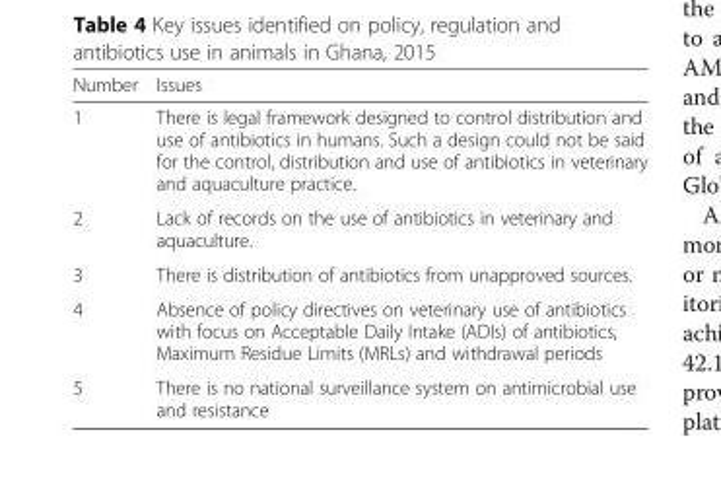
<table><thead><tr><td>Number</td><td>Issues</td></tr></thead><tbody><tr><td>1</td><td>There is legal framework designed to control distribution and use of antibiotics in humans. Such a design could not be said for the control, distribution and use of antibiotics in veterinary and aquaculture practice.</td></tr><tr><td>2</td><td>Lack of records on the use of antibiotics in veterinary and aquaculture.</td></tr><tr><td>3</td><td>There is distribution of antibiotics from unapproved sources.</td></tr><tr><td>4</td><td>Absence of policy directives on veterinary use of antibiotics with focus on Acceptable Daily Intake (ADIs) of antibiotics, Maximum Residue Limits (MRLs) and withdrawal periods</td></tr><tr><td>5</td><td>There is no national surveillance system on antimicrobial use and resistance</td></tr></tbody></table>